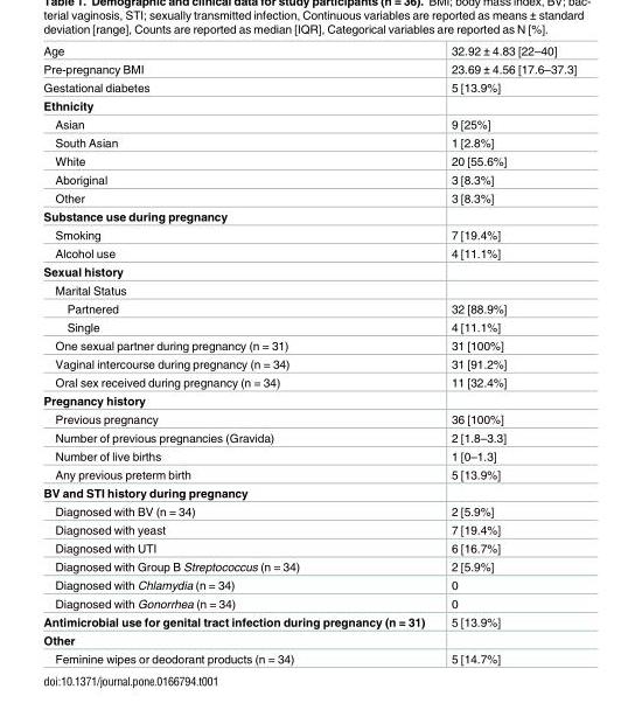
<table><tbody><tr><td>Age</td><td>32.92 ± 4.83 [22–40]</td></tr><tr><td>Pre-pregnancy BMI</td><td>23.69 ± 4.56 [17.6–37.3]</td></tr><tr><td>Gestational diabetes</td><td>5 [13.9%]</td></tr><tr><td colspan="2">Ethnicity</td></tr><tr><td>Asian</td><td>9 [25%]</td></tr><tr><td>South Asian</td><td>1 [2.8%]</td></tr><tr><td>White</td><td>20 [55.6%]</td></tr><tr><td>Aboriginal</td><td>3 [8.3%]</td></tr><tr><td>Other</td><td>3 [8.3%]</td></tr><tr><td colspan="2">Substance use during pregnancy</td></tr><tr><td>Smoking</td><td>7 [19.4%]</td></tr><tr><td>Alcohol use</td><td>4 [11.1%]</td></tr><tr><td colspan="2">Sexual history</td></tr><tr><td colspan="2">Marital Status</td></tr><tr><td>Partnered</td><td>32 [88.9%]</td></tr><tr><td>Single</td><td>4 [11.1%]</td></tr><tr><td>One sexual partner during pregnancy (n = 31)</td><td>31 [100%]</td></tr><tr><td>Vaginal intercourse during pregnancy (n = 34)</td><td>31 [91.2%]</td></tr><tr><td>Oral sex received during pregnancy (n = 34)</td><td>11 [32.4%]</td></tr><tr><td colspan="2">Pregnancy history</td></tr><tr><td>Previous pregnancy</td><td>36 [100%]</td></tr><tr><td>Number of previous pregnancies (Gravida)</td><td>2 [1.8–3.3]</td></tr><tr><td>Number of live births</td><td>1 [0–1.3]</td></tr><tr><td>Any previous preterm birth</td><td>5 [13.9%]</td></tr><tr><td colspan="2">BV and STI history during pregnancy</td></tr><tr><td>Diagnosed with BV (n = 34)</td><td>2 [5.9%]</td></tr><tr><td>Diagnosed with yeast</td><td>7 [19.4%]</td></tr><tr><td>Diagnosed with UTI</td><td>6 [16.7%]</td></tr><tr><td>Diagnosed with Group B Streptococcus (n = 34)</td><td>2 [5.9%]</td></tr><tr><td>Diagnosed with Chlamydia (n = 34)</td><td>0</td></tr><tr><td>Diagnosed with Gonorrhea (n = 34)</td><td>0</td></tr><tr><td>Antimicrobial use for genital tract infection during pregnancy (n = 31)</td><td>5 [13.9%]</td></tr><tr><td colspan="2">Other</td></tr><tr><td>Feminine wipes or deodorant products (n = 34)</td><td>5 [14.7%]</td></tr></tbody></table>